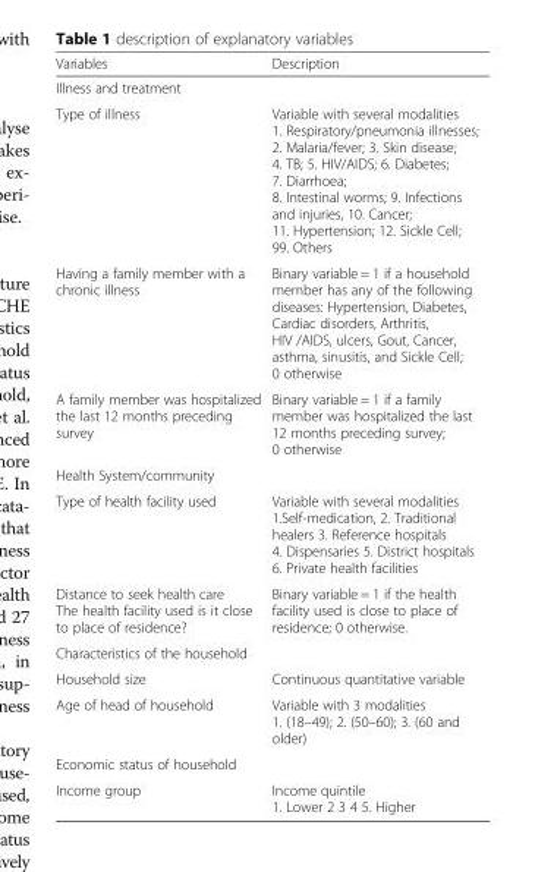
<table><thead><tr><td>Variables</td><td>Description</td></tr></thead><tbody><tr><td colspan="2">Illness and treatment</td></tr><tr><td>Type of illness</td><td>Variable with several modalities 1. Respiratory/pneumonia illnesses; 2. Malaria/fever; 3. Skin disease; 4. TB; 5. HIV/AIDS; 6. Diabetes; 7. Diarrhoea; 8. Intestinal worms; 9. Infections and injuries, 10. Cancer; 11. Hypertension; 12. Sickle Cell; 99. Others</td></tr><tr><td>Having a family member with a chronic illness</td><td>Binary variable = 1 if a household member has any of the following diseases: Hypertension, Diabetes, Cardiac disorders, Arthritis, HIV /AIDS, ulcers, Gout, Cancer, asthma, sinusitis, and Sickle Cell; 0 otherwise</td></tr><tr><td>A family member was hospitalized the last 12 months preceding survey</td><td>Binary variable = 1 if a family member was hospitalized the last 12 months preceding survey; 0 otherwise</td></tr><tr><td colspan="2">Health System/community</td></tr><tr><td>Type of health facility used</td><td>Variable with several modalities 1.Self-medication, 2. Traditional healers 3. Reference hospitals 4. Dispensaries 5. District hospitals 6. Private health facilities</td></tr><tr><td>Distance to seek health care The health facility used is it close to place of residence?</td><td>Binary variable = 1 if the health facility used is close to place of residence; 0 otherwise.</td></tr><tr><td colspan="2">Characteristics of the household</td></tr><tr><td>Household size</td><td>Continuous quantitative variable</td></tr><tr><td>Age of head of household</td><td>Variable with 3 modalities 1. (18–49); 2. (50–60); 3. (60 and older)</td></tr><tr><td colspan="2">Economic status of household</td></tr><tr><td>Income group</td><td>Income quintile 1. Lower 2 3 4 5. Higher</td></tr></tbody></table>